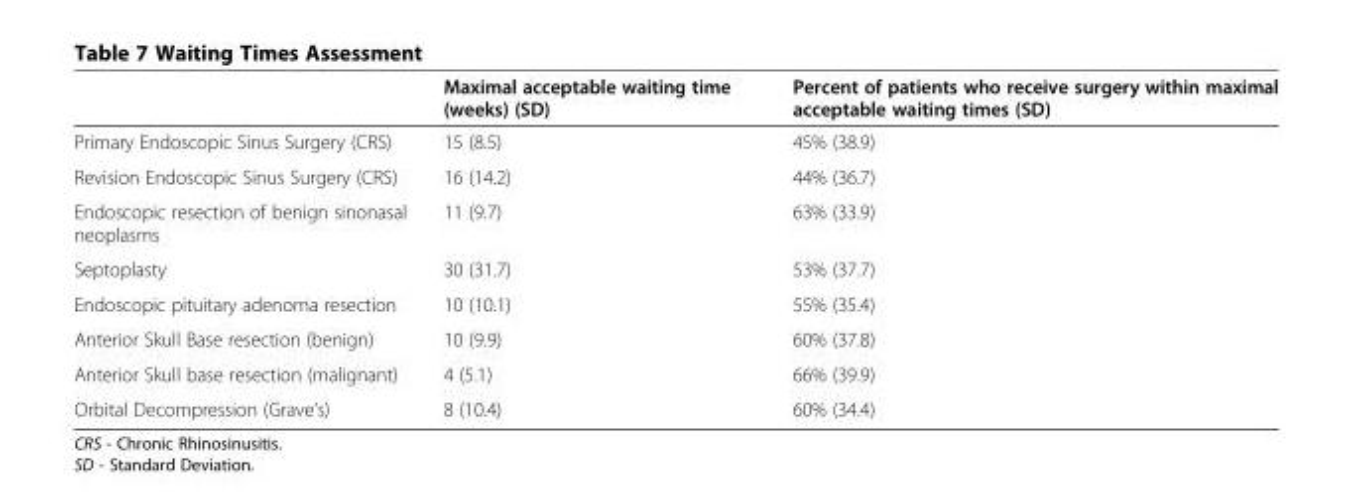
<table><thead><tr><td></td><td>Maximal acceptable waiting time (weeks) (SD)</td><td>Percent of patients who receive surgery within maximal acceptable waiting times (SD)</td></tr></thead><tbody><tr><td>Primary Endoscopic Sinus Surgery (CRS)</td><td>15 (8.5)</td><td>45% (38.9)</td></tr><tr><td>Revision Endoscopic Sinus Surgery (CRS)</td><td>16 (14.2)</td><td>44% (36.7)</td></tr><tr><td>Endoscopic resection of benign sinonasal neoplasms</td><td>11 (9.7)</td><td>63% (33.9)</td></tr><tr><td>Septoplasty</td><td>30 (31.7)</td><td>53% (37.7)</td></tr><tr><td>Endoscopic pituitary adenoma resection</td><td>10 (10.1)</td><td>55% (35.4)</td></tr><tr><td>Anterior Skull Base resection (benign)</td><td>10 (9.9)</td><td>60% (37.8)</td></tr><tr><td>Anterior Skull base resection (malignant)</td><td>4 (5.1)</td><td>66% (39.9)</td></tr><tr><td>Orbital Decompression (Grave’s)</td><td>8 (10.4)</td><td>60% (34.4)</td></tr></tbody></table>